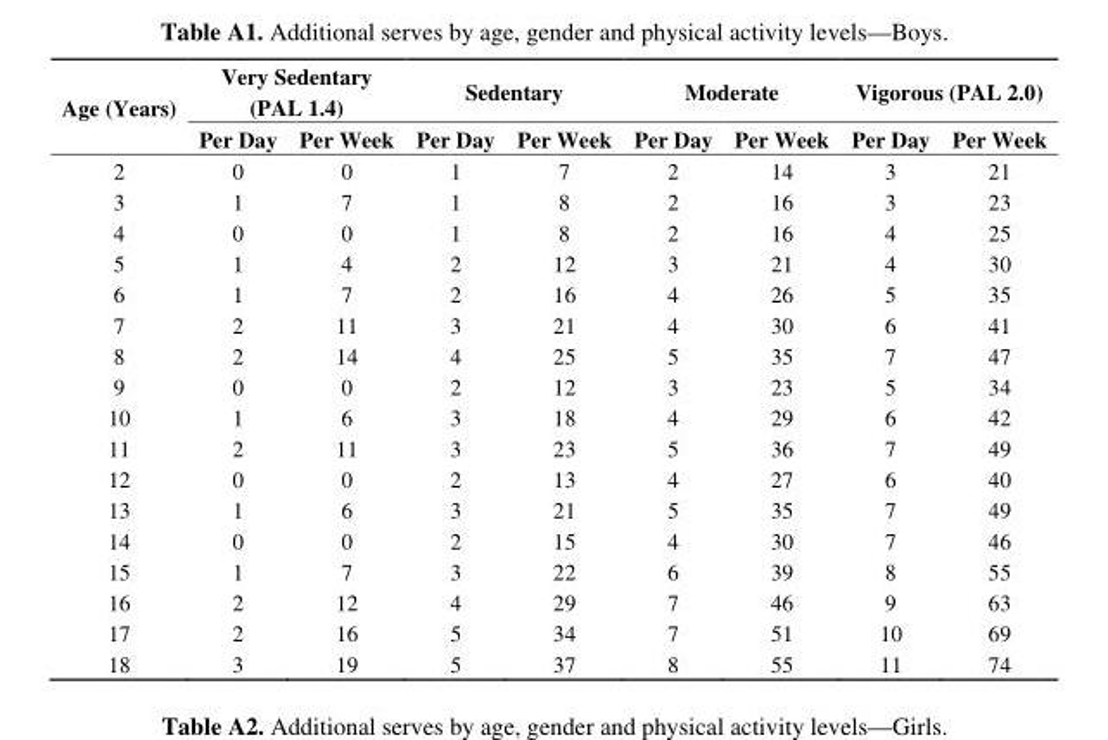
<table><thead><tr><td rowspan="2">Age (Years)</td><td colspan="2">Very Sedentary (PAL 1.4)</td><td colspan="2">Sedentary</td><td colspan="2">Moderate</td><td colspan="2">Vigorous (PAL 2.0)</td></tr><tr><td>Per Day</td><td>Per Week</td><td>Per Day</td><td>Per Week</td><td>Per Day</td><td>Per Week</td><td>Per Day</td><td>Per Week</td></tr></thead><tbody><tr><td>2</td><td>0</td><td>0</td><td>1</td><td>7</td><td>2</td><td>14</td><td>3</td><td>21</td></tr><tr><td>3</td><td>1</td><td>7</td><td>1</td><td>8</td><td>2</td><td>16</td><td>3</td><td>23</td></tr><tr><td>4</td><td>0</td><td>0</td><td>1</td><td>8</td><td>2</td><td>16</td><td>4</td><td>25</td></tr><tr><td>5</td><td>1</td><td>4</td><td>2</td><td>12</td><td>3</td><td>21</td><td>4</td><td>30</td></tr><tr><td>6</td><td>1</td><td>7</td><td>2</td><td>16</td><td>4</td><td>26</td><td>5</td><td>35</td></tr><tr><td>7</td><td>2</td><td>11</td><td>3</td><td>21</td><td>4</td><td>30</td><td>6</td><td>41</td></tr><tr><td>8</td><td>2</td><td>14</td><td>4</td><td>25</td><td>5</td><td>35</td><td>7</td><td>47</td></tr><tr><td>9</td><td>0</td><td>0</td><td>2</td><td>12</td><td>3</td><td>23</td><td>5</td><td>34</td></tr><tr><td>10</td><td>1</td><td>6</td><td>3</td><td>18</td><td>4</td><td>29</td><td>6</td><td>42</td></tr><tr><td>11</td><td>2</td><td>11</td><td>3</td><td>23</td><td>5</td><td>36</td><td>7</td><td>49</td></tr><tr><td>12</td><td>0</td><td>0</td><td>2</td><td>13</td><td>4</td><td>27</td><td>6</td><td>40</td></tr><tr><td>13</td><td>1</td><td>6</td><td>3</td><td>21</td><td>5</td><td>35</td><td>7</td><td>49</td></tr><tr><td>14</td><td>0</td><td>0</td><td>2</td><td>15</td><td>4</td><td>30</td><td>7</td><td>46</td></tr><tr><td>15</td><td>1</td><td>7</td><td>3</td><td>22</td><td>6</td><td>39</td><td>8</td><td>55</td></tr><tr><td>16</td><td>2</td><td>12</td><td>4</td><td>29</td><td>7</td><td>46</td><td>9</td><td>63</td></tr><tr><td>17</td><td>2</td><td>16</td><td>5</td><td>34</td><td>7</td><td>51</td><td>10</td><td>69</td></tr><tr><td>18</td><td>3</td><td>19</td><td>5</td><td>37</td><td>8</td><td>55</td><td>11</td><td>74</td></tr></tbody></table>